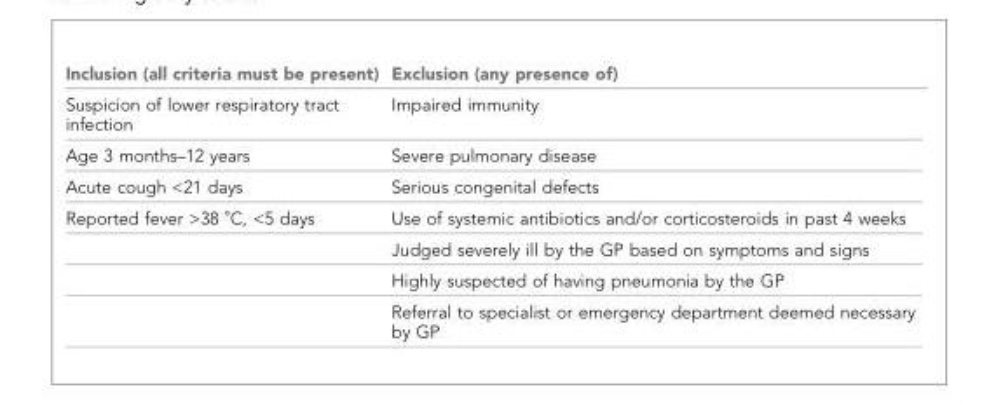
<table><thead><tr><td>Inclusion (all criteria must be present)</td><td>Exclusion (any presence of)</td></tr></thead><tbody><tr><td>Suspicion of lower respiratory tract infection</td><td>Impaired immunity</td></tr><tr><td>Age 3 months–12 years</td><td>Severe pulmonary disease</td></tr><tr><td>Acute cough &lt;21 days</td><td>Serious congenital defects</td></tr><tr><td rowspan="4">Reported fever &gt;38 ˚C, &lt;5 days</td><td>Use of systemic antibiotics and/or corticosteroids in past 4 weeks</td></tr><tr><td>Judged severely ill by the GP based on symptoms and signs</td></tr><tr><td>Highly suspected of having pneumonia by the GP</td></tr><tr><td>Referral to specialist or emergency department deemed necessary by GP</td></tr></tbody></table>